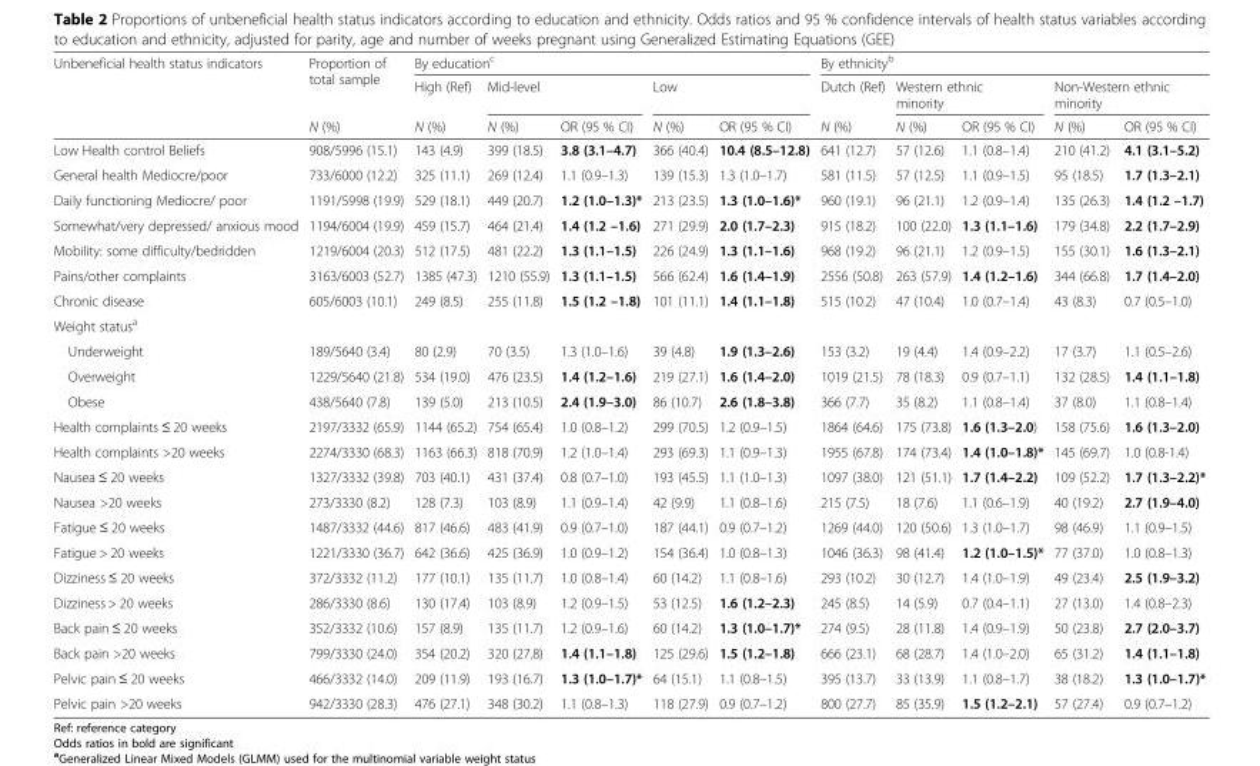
<table><thead><tr><td rowspan="3">Unbeneficial health status indicators</td><td rowspan="3">Proportion of total sample N (%)</td><td colspan="5">By education<sup>c</sup></td><td colspan="5">By ethnicity<sup>b</sup></td></tr><tr><td rowspan="2">High (Ref) N (%)</td><td colspan="2">Mid-level</td><td colspan="2">Low</td><td rowspan="2">Dutch (Ref) N (%)</td><td colspan="2">Western ethnic minority</td><td colspan="2">Non-Western ethnic minority</td></tr><tr><td>N (%)</td><td>OR (95 % CI)</td><td>N (%)</td><td>OR (95 % CI)</td><td>N (%)</td><td>OR (95 % CI)</td><td>N (%)</td><td>OR (95 % CI)</td></tr></thead><tbody><tr><td>Low Health control Beliefs</td><td>908/5996 (15.1)</td><td>143 (4.9)</td><td>399 (18.5)</td><td>3.8 (3.1–4.7)</td><td>366 (40.4)</td><td>10.4 (8.5–12.8)</td><td>641 (12.7)</td><td>57 (12.6)</td><td>1.1 (0.8–1.4)</td><td>210 (41.2)</td><td>4.1 (3.1–5.2)</td></tr><tr><td>General health Mediocre/poor</td><td>733/6000 (12.2)</td><td>325 (11.1)</td><td>269 (12.4)</td><td>1.1 (0.9–1.3)</td><td>139 (15.3)</td><td>1.3 (1.0–1.7)</td><td>581 (11.5)</td><td>57 (12.5)</td><td>1.1 (0.9–1.5)</td><td>95 (18.5)</td><td>1.7 (1.3–2.1)</td></tr><tr><td>Daily functioning Mediocre/ poor</td><td>1191/5998 (19.9)</td><td>529 (18.1)</td><td>449 (20.7)</td><td>1.2 (1.0–1.3)*</td><td>213 (23.5)</td><td>1.3 (1.0–1.6)*</td><td>960 (19.1)</td><td>96 (21.1)</td><td>1.2 (0.9–1.4)</td><td>135 (26.3)</td><td>1.4 (1.2 –1.7)</td></tr><tr><td>Somewhat/very depressed/ anxious mood</td><td>1194/6004 (19.9)</td><td>459 (15.7)</td><td>464 (21.4)</td><td>1.4 (1.2 –1.6)</td><td>271 (29.9)</td><td>2.0 (1.7–2.3)</td><td>915 (18.2)</td><td>100 (22.0)</td><td>1.3 (1.1–1.6)</td><td>179 (34.8)</td><td>2.2 (1.7–2.9)</td></tr><tr><td>Mobility: some difficulty/bedridden</td><td>1219/6004 (20.3)</td><td>512 (17.5)</td><td>481 (22.2)</td><td>1.3 (1.1–1.5)</td><td>226 (24.9)</td><td>1.3 (1.1–1.6)</td><td>968 (19.2)</td><td>96 (21.1)</td><td>1.2 (0.9–1.5)</td><td>155 (30.1)</td><td>1.6 (1.3–2.1)</td></tr><tr><td>Pains/other complaints</td><td>3163/6003 (52.7)</td><td>1385 (47.3)</td><td>1210 (55.9)</td><td>1.3 (1.1–1.5)</td><td>566 (62.4)</td><td>1.6 (1.4–1.9)</td><td>2556 (50.8)</td><td>263 (57.9)</td><td>1.4 (1.2–1.6)</td><td>344 (66.8)</td><td>1.7 (1.4–2.0)</td></tr><tr><td>Chronic disease</td><td>605/6003 (10.1)</td><td>249 (8.5)</td><td>255 (11.8)</td><td>1.5 (1.2 –1.8)</td><td>101 (11.1)</td><td>1.4 (1.1–1.8)</td><td>515 (10.2)</td><td>47 (10.4)</td><td>1.0 (0.7–1.4)</td><td>43 (8.3)</td><td>0.7 (0.5–1.0)</td></tr><tr><td colspan="12">Weight status<sup>a</sup></td></tr><tr><td>Underweight</td><td>189/5640 (3.4)</td><td>80 (2.9)</td><td>70 (3.5)</td><td>1.3 (1.0–1.6)</td><td>39 (4.8)</td><td>1.9 (1.3–2.6)</td><td>153 (3.2)</td><td>19 (4.4)</td><td>1.4 (0.9–2.2)</td><td>17 (3.7)</td><td>1.1 (0.5–2.6)</td></tr><tr><td>Overweight</td><td>1229/5640 (21.8)</td><td>534 (19.0)</td><td>476 (23.5)</td><td>1.4 (1.2–1.6)</td><td>219 (27.1)</td><td>1.6 (1.4–2.0)</td><td>1019 (21.5)</td><td>78 (18.3)</td><td>0.9 (0.7–1.1)</td><td>132 (28.5)</td><td>1.4 (1.1–1.8)</td></tr><tr><td>Obese</td><td>438/5640 (7.8)</td><td>139 (5.0)</td><td>213 (10.5)</td><td>2.4 (1.9–3.0)</td><td>86 (10.7)</td><td>2.6 (1.8–3.8)</td><td>366 (7.7)</td><td>35 (8.2)</td><td>1.1 (0.8–1.4)</td><td>37 (8.0)</td><td>1.1 (0.8–1.4)</td></tr><tr><td>Health complaints ≤ 20 weeks</td><td>2197/3332 (65.9)</td><td>1144 (65.2)</td><td>754 (65.4)</td><td>1.0 (0.8–1.2)</td><td>299 (70.5)</td><td>1.2 (0.9–1.5)</td><td>1864 (64.6)</td><td>175 (73.8)</td><td>1.6 (1.3–2.0)</td><td>158 (75.6)</td><td>1.6 (1.3–2.0)</td></tr><tr><td>Health complaints &gt;20 weeks</td><td>2274/3330 (68.3)</td><td>1163 (66.3)</td><td>818 (70.9)</td><td>1.2 (1.0–1.4)</td><td>293 (69.3)</td><td>1.1 (0.9–1.3)</td><td>1955 (67.8)</td><td>174 (73.4)</td><td>1.4 (1.0–1.8)*</td><td>145 (69.7)</td><td>1.0 (0.8-1.4)</td></tr><tr><td>Nausea ≤ 20 weeks</td><td>1327/3332 (39.8)</td><td>703 (40.1)</td><td>431 (37.4)</td><td>0.8 (0.7–1.0)</td><td>193 (45.5)</td><td>1.1 (1.0–1.3)</td><td>1097 (38.0)</td><td>121 (51.1)</td><td>1.7 (1.4–2.2)</td><td>109 (52.2)</td><td>1.7 (1.3–2.2)*</td></tr><tr><td>Nausea &gt;20 weeks</td><td>273/3330 (8.2)</td><td>128 (7.3)</td><td>103 (8.9)</td><td>1.1 (0.9–1.4)</td><td>42 (9.9)</td><td>1.1 (0.8–1.6)</td><td>215 (7.5)</td><td>18 (7.6)</td><td>1.1 (0.6–1.9)</td><td>40 (19.2)</td><td>2.7 (1.9–4.0)</td></tr><tr><td>Fatigue ≤ 20 weeks</td><td>1487/3332 (44.6)</td><td>817 (46.6)</td><td>483 (41.9)</td><td>0.9 (0.7–1.0)</td><td>187 (44.1)</td><td>0.9 (0.7–1.2)</td><td>1269 (44.0)</td><td>120 (50.6)</td><td>1.3 (1.0–1.7)</td><td>98 (46.9)</td><td>1.1 (0.9–1.5)</td></tr><tr><td>Fatigue &gt; 20 weeks</td><td>1221/3330 (36.7)</td><td>642 (36.6)</td><td>425 (36.9)</td><td>1.0 (0.9–1.2)</td><td>154 (36.4)</td><td>1.0 (0.8–1.3)</td><td>1046 (36.3)</td><td>98 (41.4)</td><td>1.2 (1.0–1.5)*</td><td>77 (37.0)</td><td>1.0 (0.8–1.3)</td></tr><tr><td>Dizziness ≤ 20 weeks</td><td>372/3332 (11.2)</td><td>177 (10.1)</td><td>135 (11.7)</td><td>1.0 (0.8–1.4)</td><td>60 (14.2)</td><td>1.1 (0.8–1.6)</td><td>293 (10.2)</td><td>30 (12.7)</td><td>1.4 (1.0–1.9)</td><td>49 (23.4)</td><td>2.5 (1.9–3.2)</td></tr><tr><td>Dizziness &gt; 20 weeks</td><td>286/3330 (8.6)</td><td>130 (17.4)</td><td>103 (8.9)</td><td>1.2 (0.9–1.5)</td><td>53 (12.5)</td><td>1.6 (1.2–2.3)</td><td>245 (8.5)</td><td>14 (5.9)</td><td>0.7 (0.4–1.1)</td><td>27 (13.0)</td><td>1.4 (0.8–2.3)</td></tr><tr><td>Back pain ≤ 20 weeks</td><td>352/3332 (10.6)</td><td>157 (8.9)</td><td>135 (11.7)</td><td>1.2 (0.9–1.6)</td><td>60 (14.2)</td><td>1.3 (1.0–1.7)*</td><td>274 (9.5)</td><td>28 (11.8)</td><td>1.4 (0.9–1.9)</td><td>50 (23.8)</td><td>2.7 (2.0–3.7)</td></tr><tr><td>Back pain &gt;20 weeks</td><td>799/3330 (24.0)</td><td>354 (20.2)</td><td>320 (27.8)</td><td>1.4 (1.1–1.8)</td><td>125 (29.6)</td><td>1.5 (1.2–1.8)</td><td>666 (23.1)</td><td>68 (28.7)</td><td>1.4 (1.0–2.0)</td><td>65 (31.2)</td><td>1.4 (1.1–1.8)</td></tr><tr><td>Pelvic pain ≤ 20 weeks</td><td>466/3332 (14.0)</td><td>209 (11.9)</td><td>193 (16.7)</td><td>1.3 (1.0–1.7)*</td><td>64 (15.1)</td><td>1.1 (0.8–1.5)</td><td>395 (13.7)</td><td>33 (13.9)</td><td>1.1 (0.8–1.7)</td><td>38 (18.2)</td><td>1.3 (1.0–1.7)*</td></tr><tr><td>Pelvic pain &gt;20 weeks</td><td>942/3330 (28.3)</td><td>476 (27.1)</td><td>348 (30.2)</td><td>1.1 (0.8–1.3)</td><td>118 (27.9)</td><td>0.9 (0.7–1.2)</td><td>800 (27.7)</td><td>85 (35.9)</td><td>1.5 (1.2–2.1)</td><td>57 (27.4)</td><td>0.9 (0.7–1.2)</td></tr></tbody></table>